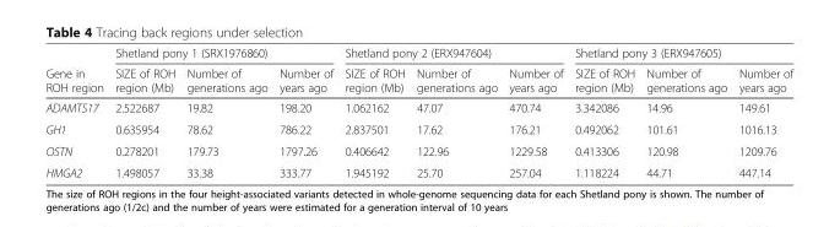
<table><thead><tr><td rowspan="2">Gene in ROH region</td><td colspan="3">Shetland pony 1 (SRX1976860)</td><td colspan="3">Shetland pony 2 (ERX947604)</td><td colspan="3">Shetland pony 3 (ERX947605)</td></tr><tr><td>SIZE of ROH region (Mb)</td><td>Number of generations ago</td><td>Number of years ago</td><td>SIZE of ROH region (Mb)</td><td>Number of generations ago</td><td>Number of years ago</td><td>SIZE of ROH region (Mb)</td><td>Number of generations ago</td><td>Number of years ago</td></tr></thead><tbody><tr><td>ADAMTS17</td><td>2.522687</td><td>19.82</td><td>198.20</td><td>1.062162</td><td>47.07</td><td>470.74</td><td>3.342086</td><td>14.96</td><td>149.61</td></tr><tr><td>GH1</td><td>0.635954</td><td>78.62</td><td>786.22</td><td>2.837501</td><td>17.62</td><td>176.21</td><td>0.492062</td><td>101.61</td><td>1016.13</td></tr><tr><td>OSTN</td><td>0.278201</td><td>179.73</td><td>1797.26</td><td>0.406642</td><td>122.96</td><td>1229.58</td><td>0.413306</td><td>120.98</td><td>1209.76</td></tr><tr><td>HMGA2</td><td>1.498057</td><td>33.38</td><td>333.77</td><td>1.945192</td><td>25.70</td><td>257.04</td><td>1.118224</td><td>44.71</td><td>447.14</td></tr></tbody></table>